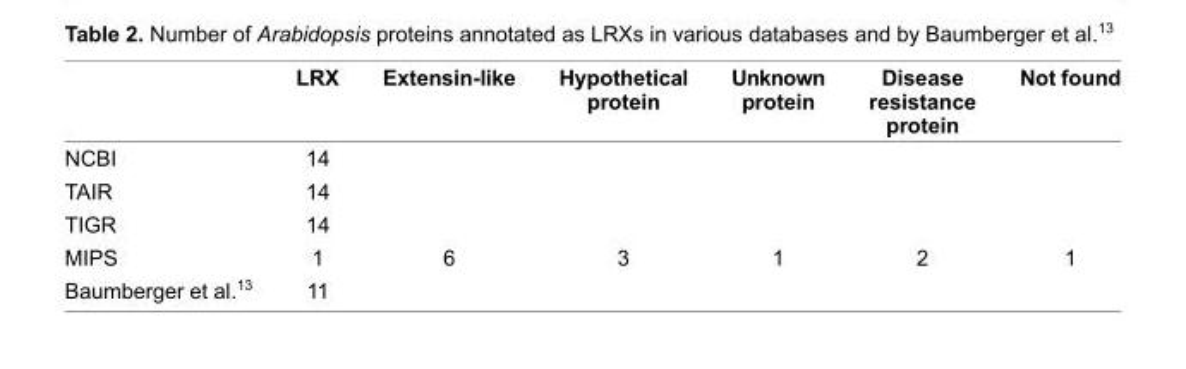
<table><thead><tr><td></td><td>LRX</td><td>Extensin-like</td><td>Hypothetical protein</td><td>Unknown protein</td><td>Disease resistance protein</td><td>Not found</td></tr></thead><tbody><tr><td>NCBI</td><td>14</td><td></td><td></td><td></td><td></td><td></td></tr><tr><td>TAIR</td><td>14</td><td></td><td></td><td></td><td></td><td></td></tr><tr><td>TIGR</td><td>14</td><td></td><td></td><td></td><td></td><td></td></tr><tr><td>MIPS</td><td>1</td><td>6</td><td>3</td><td>1</td><td>2</td><td>1</td></tr><tr><td>Baumberger et al.<sup>13</sup></td><td>11</td><td></td><td></td><td></td><td></td><td></td></tr></tbody></table>